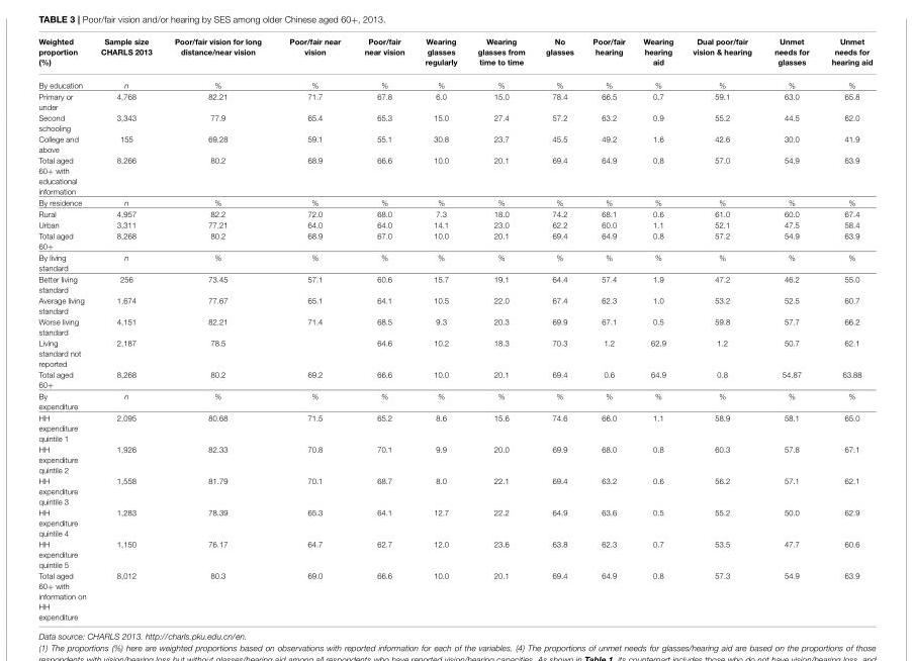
<table><thead><tr><td>Weighted proportion (%)</td><td>Sample size CHARLS 2013</td><td>Poor/fair vision for long distance/near vision</td><td>Poor/fair near vision</td><td>Poor/fair near vision</td><td>Wearing glasses regularly</td><td>Wearing glasses from time to time</td><td>No glasses</td><td>Poor/fair hearing</td><td>Wearing hearing aid</td><td>Dual poor/fair vision &amp; hearing</td><td>Unmet needs for glasses</td><td>Unmet needs for hearing aid</td></tr></thead><tbody><tr><td>By education</td><td>n</td><td>%</td><td>%</td><td>%</td><td>%</td><td>%</td><td>%</td><td>%</td><td>%</td><td>%</td><td>%</td><td>%</td></tr><tr><td>Primary or under</td><td>4,768</td><td>82.21</td><td>71.7</td><td>67.8</td><td>6.0</td><td>15.0</td><td>78.4</td><td>66.5</td><td>0.7</td><td>59.1</td><td>63.0</td><td>65.8</td></tr><tr><td>Second schooling</td><td>3,343</td><td>77.9</td><td>65.4</td><td>65.3</td><td>15.0</td><td>27.4</td><td>57.2</td><td>63.2</td><td>0.9</td><td>55.2</td><td>44.5</td><td>62.0</td></tr><tr><td>College and above</td><td>155</td><td>69.28</td><td>59.1</td><td>55.1</td><td>30.8</td><td>23.7</td><td>45.5</td><td>49.2</td><td>1.6</td><td>42.6</td><td>30.0</td><td>41.9</td></tr><tr><td>Total aged 60+ with educational information</td><td>8,266</td><td>80.2</td><td>68.9</td><td>66.6</td><td>10.0</td><td>20.1</td><td>69.4</td><td>64.9</td><td>0.8</td><td>57.0</td><td>54.9</td><td>63.9</td></tr><tr><td>By residence</td><td>n</td><td>%</td><td>%</td><td>%</td><td>%</td><td>%</td><td>%</td><td>%</td><td>%</td><td>%</td><td>%</td><td>%</td></tr><tr><td>Rural</td><td>4,957</td><td>82.2</td><td>72.0</td><td>68.0</td><td>7.3</td><td>18.0</td><td>74.2</td><td>68.1</td><td>0.6</td><td>61.0</td><td>60.0</td><td>67.4</td></tr><tr><td>Urban</td><td>3,311</td><td>77.21</td><td>64.0</td><td>64.0</td><td>14.1</td><td>23.0</td><td>62.2</td><td>60.0</td><td>1.1</td><td>52.1</td><td>47.5</td><td>58.4</td></tr><tr><td>Total aged 60+</td><td>8,268</td><td>80.2</td><td>68.9</td><td>67.0</td><td>10.0</td><td>20.1</td><td>69.4</td><td>64.9</td><td>0.8</td><td>57.2</td><td>54.9</td><td>63.9</td></tr><tr><td>By living standard</td><td>n</td><td>%</td><td>%</td><td>%</td><td>%</td><td>%</td><td>%</td><td>%</td><td>%</td><td>%</td><td>%</td><td>%</td></tr><tr><td>Better living standard</td><td>256</td><td>73.45</td><td>57.1</td><td>60.6</td><td>15.7</td><td>19.1</td><td>64.4</td><td>57.4</td><td>1.9</td><td>47.2</td><td>46.2</td><td>55.0</td></tr><tr><td>Average living standard</td><td>1,674</td><td>77.67</td><td>65.1</td><td>64.1</td><td>10.5</td><td>22.0</td><td>67.4</td><td>62.3</td><td>1.0</td><td>53.2</td><td>52.5</td><td>60.7</td></tr><tr><td>Worse living standard</td><td>4,151</td><td>82.21</td><td>71.4</td><td>68.5</td><td>9.3</td><td>20.3</td><td>69.9</td><td>67.1</td><td>0.5</td><td>59.8</td><td>57.7</td><td>66.2</td></tr><tr><td>Living standard not reported</td><td>2,187</td><td>78.5</td><td></td><td>64.6</td><td>10.2</td><td>18.3</td><td>70.3</td><td>1.2</td><td>62.9</td><td>1.2</td><td>50.7</td><td>62.1</td></tr><tr><td>Total aged 60+</td><td>8,268</td><td>80.2</td><td>69.2</td><td>66.6</td><td>10.0</td><td>20.1</td><td>69.4</td><td>0.6</td><td>64.9</td><td>0.8</td><td>54.87</td><td>63.88</td></tr><tr><td>By expenditure</td><td>n</td><td>%</td><td>%</td><td>%</td><td>%</td><td>%</td><td>%</td><td>%</td><td>%</td><td>%</td><td>%</td><td>%</td></tr><tr><td>HH expenditure quintile 1</td><td>2,095</td><td>80.68</td><td>71.5</td><td>65.2</td><td>8.6</td><td>15.6</td><td>74.6</td><td>66.0</td><td>1.1</td><td>58.9</td><td>58.1</td><td>65.0</td></tr><tr><td>HH expenditure quintile 2</td><td>1,926</td><td>82.33</td><td>70.8</td><td>70.1</td><td>9.9</td><td>20.0</td><td>69.9</td><td>68.0</td><td>0.8</td><td>60.3</td><td>57.8</td><td>67.1</td></tr><tr><td>HH expenditure quintile 3</td><td>1,558</td><td>81.79</td><td>70.1</td><td>68.7</td><td>8.0</td><td>22.1</td><td>69.4</td><td>63.2</td><td>0.6</td><td>56.2</td><td>57.1</td><td>62.1</td></tr><tr><td>HH expenditure quintile 4</td><td>1,283</td><td>78.39</td><td>65.3</td><td>64.1</td><td>12.7</td><td>22.2</td><td>64.9</td><td>63.6</td><td>0.5</td><td>55.2</td><td>50.0</td><td>62.9</td></tr><tr><td>HH expenditure quintile 5</td><td>1,150</td><td>76.17</td><td>64.7</td><td>62.7</td><td>12.0</td><td>23.6</td><td>63.8</td><td>62.3</td><td>0.7</td><td>53.5</td><td>47.7</td><td>60.6</td></tr><tr><td>Total aged 60+ with information on HH expenditure</td><td>8,012</td><td>80.3</td><td>69.0</td><td>66.6</td><td>10.0</td><td>20.1</td><td>69.4</td><td>64.9</td><td>0.8</td><td>57.3</td><td>54.9</td><td>63.9</td></tr></tbody></table>